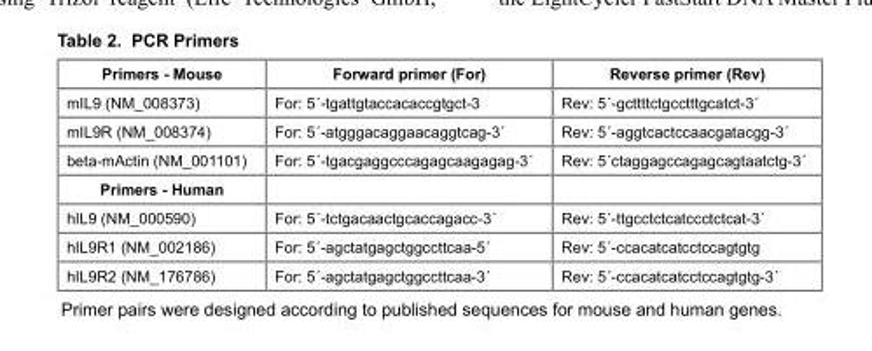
<table><thead><tr><td>Primers - Mouse</td><td>Forward primer (For)</td><td>Reverse primer (Rev)</td></tr></thead><tbody><tr><td>mIL9 (NM_008373)</td><td>For: 5´-tgattgtaccacaccgtgct-3</td><td>Rev: 5´-gcttttctgcctttgcatct-3´</td></tr><tr><td>mIL9R (NM_008374)</td><td>For: 5´-atgggacaggaacaggtcag-3´</td><td>Rev: 5´-aggtcactccaacgatacgg-3´</td></tr><tr><td>beta-mActin (NM_001101)</td><td>For: 5´-tgacgaggcccagagcaagagag-3´</td><td>Rev: 5´ctaggagccagagcagtaatctg-3´</td></tr><tr><td colspan="3">Primers - Human</td></tr><tr><td>hIL9 (NM_000590)</td><td>For: 5´-tctgacaactgcaccagacc-3´</td><td>Rev: 5´-ttgcctctcatccctctcat-3´</td></tr><tr><td>hIL9R1 (NM_002186)</td><td>For: 5´-agctatgagctggccttcaa-5´</td><td>Rev: 5´-ccacatcatcctccagtgtg</td></tr><tr><td>hIL9R2 (NM_176786)</td><td>For: 5´-agctatgagctggccttcaa-3´</td><td>Rev: 5´-ccacatcatcctccagtgtg-3´</td></tr></tbody></table>